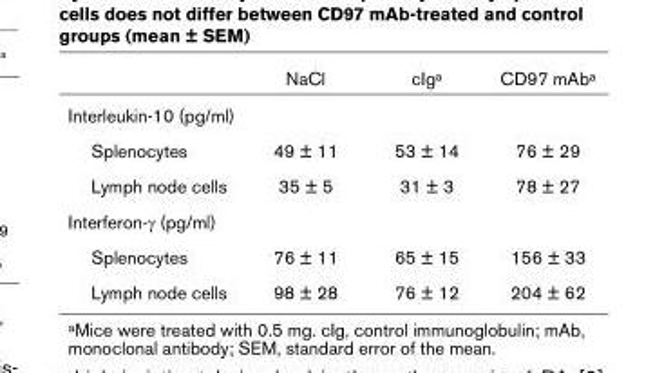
<table><thead><tr><td></td><td>NaCl</td><td>cIga</td><td>CD97 mAba</td></tr></thead><tbody><tr><td colspan="4">Interleukin-10 (pg/ml)</td></tr><tr><td>Splenocytes</td><td>49 ± 11</td><td>53 ± 14</td><td>76 ± 29</td></tr><tr><td>Lymph node cells</td><td>35 ± 5</td><td>31 ± 3</td><td>78 ± 27</td></tr><tr><td colspan="4">Interferon-γ (pg/ml)</td></tr><tr><td>Splenocytes</td><td>76 ± 11</td><td>65 ± 15</td><td>156 ± 33</td></tr><tr><td>Lymph node cells</td><td>98 ± 28</td><td>76 ± 12</td><td>204 ± 62</td></tr></tbody></table>